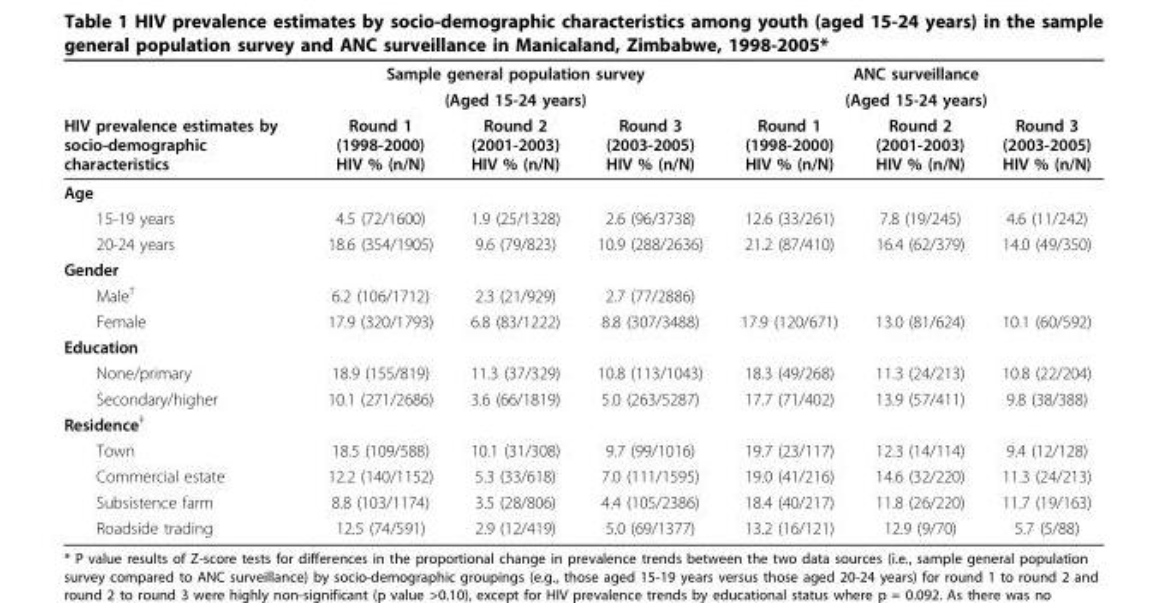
<table><thead><tr><td rowspan="3">HIV prevalence estimates by socio-demographic characteristics</td><td rowspan="2" colspan="3">Sample general population survey (Aged 15-24 years)</td><td rowspan="2" colspan="3">ANC surveillance (Aged 15-24 years)</td></tr><tr></tr><tr><td>Round 1 (1998-2000) HIV % (n/N)</td><td>Round 2 (2001-2003) HIV % (n/N)</td><td>Round 3 (2003-2005) HIV % (n/N)</td><td>Round 1 (1998-2000) HIV % (n/N)</td><td>Round 2 (2001-2003) HIV % (n/N)</td><td>Round 3 (2003-2005) HIV % (n/N)</td></tr></thead><tbody><tr><td colspan="7">Age</td></tr><tr><td>15-19 years</td><td>4.5 (72/1600)</td><td>1.9 (25/1328)</td><td>2.6 (96/3738)</td><td>12.6 (33/261)</td><td>7.8 (19/245)</td><td>4.6 (11/242)</td></tr><tr><td>20-24 years</td><td>18.6 (354/1905)</td><td>9.6 (79/823)</td><td>10.9 (288/2636)</td><td>21.2 (87/410)</td><td>16.4 (62/379)</td><td>14.0 (49/350)</td></tr><tr><td colspan="7">Gender</td></tr><tr><td>Male<sup>†</sup></td><td>6.2 (106/1712)</td><td>2.3 (21/929)</td><td>2.7 (77/2886)</td><td></td><td></td><td></td></tr><tr><td>Female</td><td>17.9 (320/1793)</td><td>6.8 (83/1222)</td><td>8.8 (307/3488)</td><td>17.9 (120/671)</td><td>13.0 (81/624)</td><td>10.1 (60/592)</td></tr><tr><td colspan="7">Education</td></tr><tr><td>None/primary</td><td>18.9 (155/819)</td><td>11.3 (37/329)</td><td>10.8 (113/1043)</td><td>18.3 (49/268)</td><td>11.3 (24/213)</td><td>10.8 (22/204)</td></tr><tr><td>Secondary/higher</td><td>10.1 (271/2686)</td><td>3.6 (66/1819)</td><td>5.0 (263/5287)</td><td>17.7 (71/402)</td><td>13.9 (57/411)</td><td>9.8 (38/388)</td></tr><tr><td colspan="7">Residence<sup>‡</sup></td></tr><tr><td>Town</td><td>18.5 (109/588)</td><td>10.1 (31/308)</td><td>9.7 (99/1016)</td><td>19.7 (23/117)</td><td>12.3 (14/114)</td><td>9.4 (12/128)</td></tr><tr><td>Commercial estate</td><td>12.2 (140/1152)</td><td>5.3 (33/618)</td><td>7.0 (111/1595)</td><td>19.0 (41/216)</td><td>14.6 (32/220)</td><td>11.3 (24/213)</td></tr><tr><td>Subsistence farm</td><td>8.8 (103/1174)</td><td>3.5 (28/806)</td><td>4.4 (105/2386)</td><td>18.4 (40/217)</td><td>11.8 (26/220)</td><td>11.7 (19/163)</td></tr><tr><td>Roadside trading</td><td>12.5 (74/591)</td><td>2.9 (12/419)</td><td>5.0 (69/1377)</td><td>13.2 (16/121)</td><td>12.9 (9/70)</td><td>5.7 (5/88)</td></tr></tbody></table>